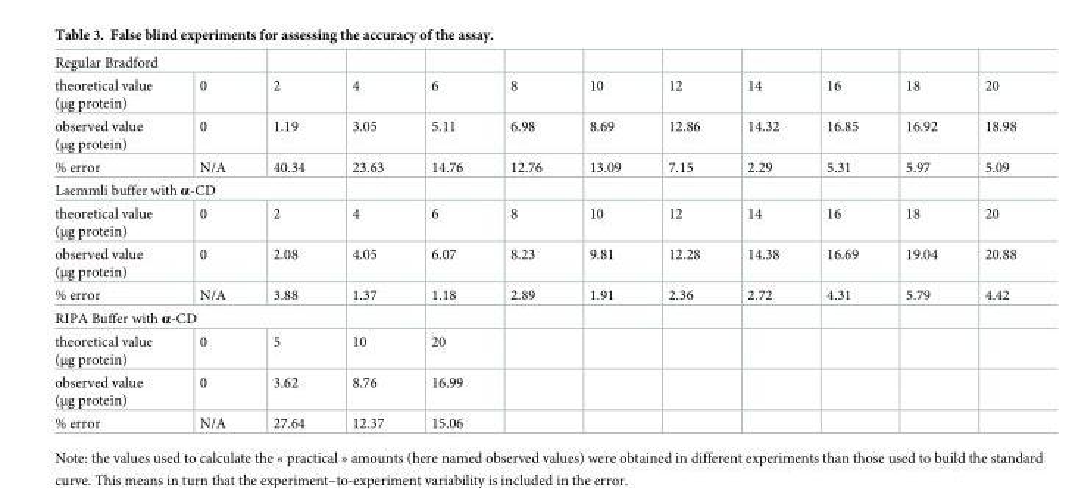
<table><tbody><tr><td colspan="12">Regular Bradford</td></tr><tr><td>theoretical value (μg protein)</td><td>0</td><td>2</td><td>4</td><td>6</td><td>8</td><td>10</td><td>12</td><td>14</td><td>16</td><td>18</td><td>20</td></tr><tr><td>observed value (μg protein)</td><td>0</td><td>1.19</td><td>3.05</td><td>5.11</td><td>6.98</td><td>8.69</td><td>12.86</td><td>14.32</td><td>16.85</td><td>16.92</td><td>18.98</td></tr><tr><td>% error</td><td>N/A</td><td>40.34</td><td>23.63</td><td>14.76</td><td>12.76</td><td>13.09</td><td>7.15</td><td>2.29</td><td>5.31</td><td>5.97</td><td>5.09</td></tr><tr><td colspan="12">Laemmli buffer with α-CD</td></tr><tr><td>theoretical value (μg protein)</td><td>0</td><td>2</td><td>4</td><td>6</td><td>8</td><td>10</td><td>12</td><td>14</td><td>16</td><td>18</td><td>20</td></tr><tr><td>observed value (μg protein)</td><td>0</td><td>2.08</td><td>4.05</td><td>6.07</td><td>8.23</td><td>9.81</td><td>12.28</td><td>14.38</td><td>16.69</td><td>19.04</td><td>20.88</td></tr><tr><td>% error</td><td>N/A</td><td>3.88</td><td>1.37</td><td>1.18</td><td>2.89</td><td>1.91</td><td>2.36</td><td>2.72</td><td>4.31</td><td>5.79</td><td>4.42</td></tr><tr><td colspan="12">RIPA Buffer with α-CD</td></tr><tr><td>theoretical value (μg protein)</td><td>0</td><td>5</td><td>10</td><td>20</td><td></td><td></td><td></td><td></td><td></td><td></td><td></td></tr><tr><td>observed value (μg protein)</td><td>0</td><td>3.62</td><td>8.76</td><td>16.99</td><td></td><td></td><td></td><td></td><td></td><td></td><td></td></tr><tr><td>% error</td><td>N/A</td><td>27.64</td><td>12.37</td><td>15.06</td><td></td><td></td><td></td><td></td><td></td><td></td><td></td></tr></tbody></table>